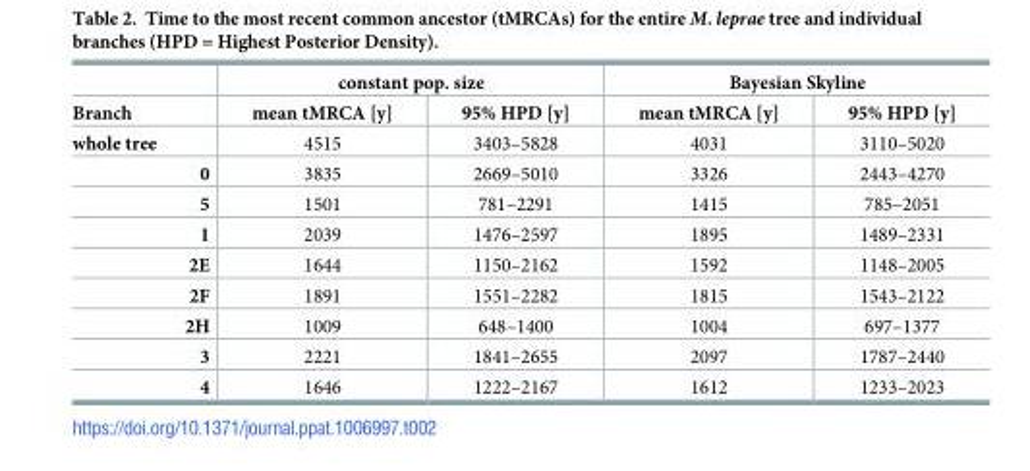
<table><thead><tr><td rowspan="2">Branch</td><td colspan="2">constant pop. size</td><td colspan="2">Bayesian Skyline</td></tr><tr><td>mean tMRCA [y]</td><td>95% HPD [y]</td><td>mean tMRCA [y]</td><td>95% HPD [y]</td></tr></thead><tbody><tr><td>whole tree</td><td>4515</td><td>3403–5828</td><td>4031</td><td>3110–5020</td></tr><tr><td>0</td><td>3835</td><td>2669–5010</td><td>3326</td><td>2443–4270</td></tr><tr><td>5</td><td>1501</td><td>781–2291</td><td>1415</td><td>785–2051</td></tr><tr><td>1</td><td>2039</td><td>1476–2597</td><td>1895</td><td>1489–2331</td></tr><tr><td>2E</td><td>1644</td><td>1150–2162</td><td>1592</td><td>1148–2005</td></tr><tr><td>2F</td><td>1891</td><td>1551–2282</td><td>1815</td><td>1543–2122</td></tr><tr><td>2H</td><td>1009</td><td>648–1400</td><td>1004</td><td>697–1377</td></tr><tr><td>3</td><td>2221</td><td>1841–2655</td><td>2097</td><td>1787–2440</td></tr><tr><td>4</td><td>1646</td><td>1222–2167</td><td>1612</td><td>1233–2023</td></tr></tbody></table>